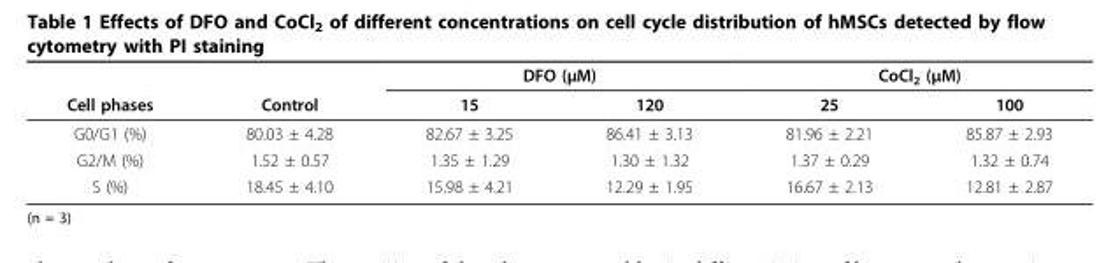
<table><thead><tr><td rowspan="2">Cell phases</td><td rowspan="2">Control</td><td colspan="2">DFO (μM)</td><td colspan="2">CoCl<sub>2</sub> (μM)</td></tr><tr><td>15</td><td>120</td><td>25</td><td>100</td></tr></thead><tbody><tr><td>G0/G1 (%)</td><td>80.03 ± 4.28</td><td>82.67 ± 3.25</td><td>86.41 ± 3.13</td><td>81.96 ± 2.21</td><td>85.87 ± 2.93</td></tr><tr><td>G2/M (%)</td><td>1.52 ± 0.57</td><td>1.35 ± 1.29</td><td>1.30 ± 1.32</td><td>1.37 ± 0.29</td><td>1.32 ± 0.74</td></tr><tr><td>S (%)</td><td>18.45 ± 4.10</td><td>15.98 ± 4.21</td><td>12.29 ± 1.95</td><td>16.67 ± 2.13</td><td>12.81 ± 2.87</td></tr></tbody></table>